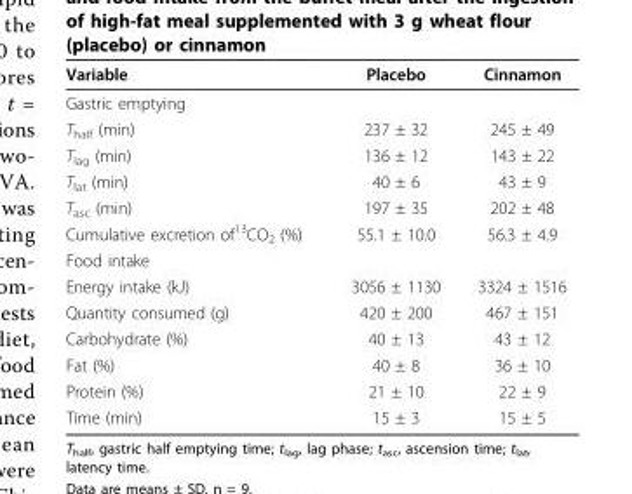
<table><thead><tr><td>Variable</td><td>Placebo</td><td>Cinnamon</td></tr></thead><tbody><tr><td colspan="3">Gastric emptying</td></tr><tr><td>T<sub>half</sub> (min)</td><td>237 ± 32</td><td>245 ± 49</td></tr><tr><td>T<sub>lag</sub> (min)</td><td>136 ± 12</td><td>143 ± 22</td></tr><tr><td>T<sub>lat</sub> (min)</td><td>40 ± 6</td><td>43 ± 9</td></tr><tr><td>T<sub>asc</sub> (min)</td><td>197 ± 35</td><td>202 ± 48</td></tr><tr><td>Cumulative excretion of<sup>13</sup>CO<sub>2</sub> (%)</td><td>55.1 ± 10.0</td><td>56.3 ± 4.9</td></tr><tr><td colspan="3">Food intake</td></tr><tr><td>Energy intake (kJ)</td><td>3056 ± 1130</td><td>3324 ± 1516</td></tr><tr><td>Quantity consumed (g)</td><td>420 ± 200</td><td>467 ± 151</td></tr><tr><td>Carbohydrate (%)</td><td>40 ± 13</td><td>43 ± 12</td></tr><tr><td>Fat (%)</td><td>40 ± 8</td><td>36 ± 10</td></tr><tr><td>Protein (%)</td><td>21 ± 10</td><td>22 ± 9</td></tr><tr><td>Time (min)</td><td>15 ± 3</td><td>15 ± 5</td></tr></tbody></table>